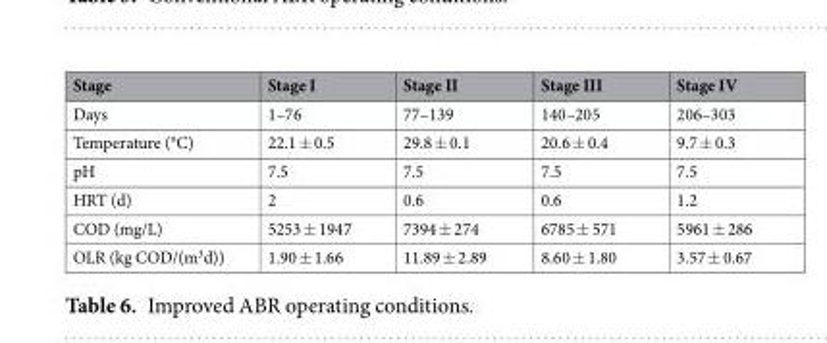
<table><thead><tr><td>Stage</td><td>Stage I</td><td>Stage II</td><td>Stage III</td><td>Stage IV</td></tr></thead><tbody><tr><td>Days</td><td>1–76</td><td>77–139</td><td>140–205</td><td>206–303</td></tr><tr><td>Temperature (°C)</td><td>22.1 ± 0.5</td><td>29.8 ± 0.1</td><td>20.6 ± 0.4</td><td>9.7 ± 0.3</td></tr><tr><td>pH</td><td>7.5</td><td>7.5</td><td>7.5</td><td>7.5</td></tr><tr><td>HRT (d)</td><td>2</td><td>0.6</td><td>0.6</td><td>1.2</td></tr><tr><td>COD (mg/L)</td><td>5253 ± 1947</td><td>7394 ± 274</td><td>6785 ± 571</td><td>5961 ± 286</td></tr><tr><td>OLR (kg COD/(m<sup>3</sup>d))</td><td>1.90 ± 1.66</td><td>11.89 ± 2.89</td><td>8.60 ± 1.80</td><td>3.57 ± 0.67</td></tr></tbody></table>